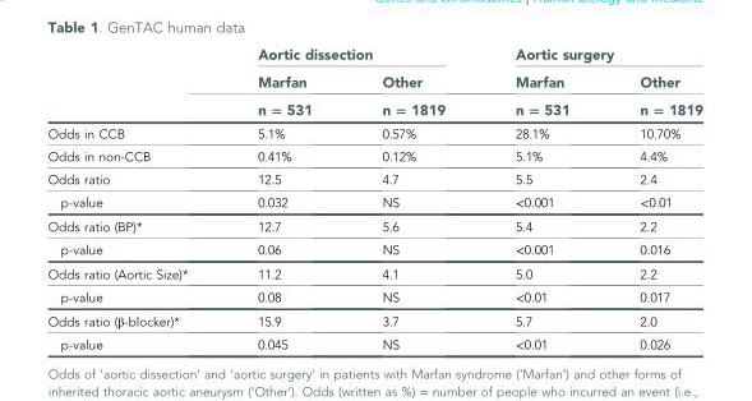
<table><thead><tr><td rowspan="3"></td><td colspan="2">Aortic dissection</td><td colspan="2">Aortic surgery</td></tr><tr><td rowspan="2">Marfan n = 531</td><td rowspan="2">Other n = 1819</td><td rowspan="2">Marfan n = 531</td><td rowspan="2">Other n = 1819</td></tr><tr></tr></thead><tbody><tr><td>Odds in CCB</td><td>5.1%</td><td>0.57%</td><td>28.1%</td><td>10.70%</td></tr><tr><td>Odds in non-CCB</td><td>0.41%</td><td>0.12%</td><td>5.1%</td><td>4.4%</td></tr><tr><td>Odds ratio</td><td>12.5</td><td>4.7</td><td>5.5</td><td>2.4</td></tr><tr><td>p-value</td><td>0.032</td><td>NS</td><td>&lt;0.001</td><td>&lt;0.01</td></tr><tr><td>Odds ratio (BP)*</td><td>12.7</td><td>5.6</td><td>5.4</td><td>2.2</td></tr><tr><td>p-value</td><td>0.06</td><td>NS</td><td>&lt;0.001</td><td>0.016</td></tr><tr><td>Odds ratio (Aortic Size)*</td><td>11.2</td><td>4.1</td><td>5.0</td><td>2.2</td></tr><tr><td>p-value</td><td>0.08</td><td>NS</td><td>&lt;0.01</td><td>0.017</td></tr><tr><td>Odds ratio (β-blocker)*</td><td>15.9</td><td>3.7</td><td>5.7</td><td>2.0</td></tr><tr><td>p-value</td><td>0.045</td><td>NS</td><td>&lt;0.01</td><td>0.026</td></tr></tbody></table>